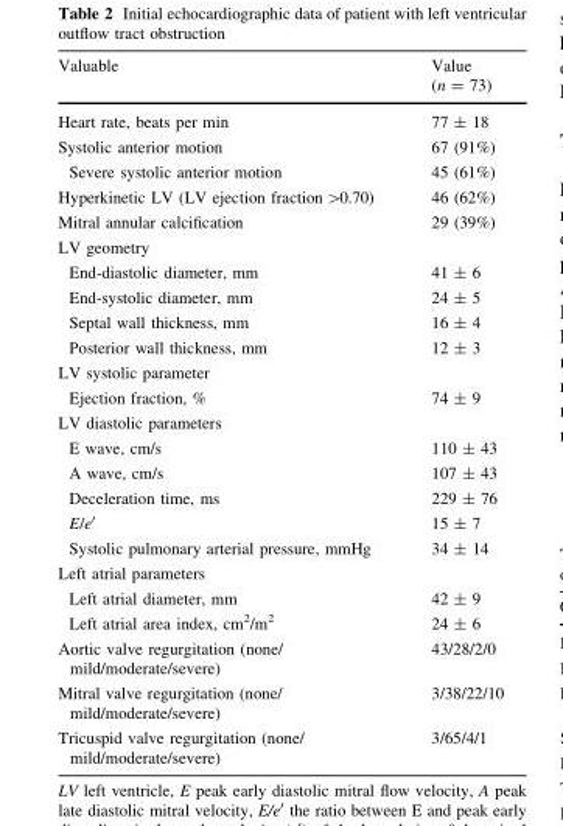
<table><thead><tr><td>Valuable</td><td>Value (n = 73)</td></tr></thead><tbody><tr><td>Heart rate, beats per min</td><td>77 ± 18</td></tr><tr><td>Systolic anterior motion</td><td>67 (91%)</td></tr><tr><td>Severe systolic anterior motion</td><td>45 (61%)</td></tr><tr><td>Hyperkinetic LV (LV ejection fraction &gt;0.70)</td><td>46 (62%)</td></tr><tr><td>Mitral annular calcification</td><td>29 (39%)</td></tr><tr><td colspan="2">LV geometry</td></tr><tr><td>End-diastolic diameter, mm</td><td>41 ± 6</td></tr><tr><td>End-systolic diameter, mm</td><td>24 ± 5</td></tr><tr><td>Septal wall thickness, mm</td><td>16 ± 4</td></tr><tr><td>Posterior wall thickness, mm</td><td>12 ± 3</td></tr><tr><td colspan="2">LV systolic parameter</td></tr><tr><td>Ejection fraction, %</td><td>74 ± 9</td></tr><tr><td colspan="2">LV diastolic parameters</td></tr><tr><td>E wave, cm/s</td><td>110 ± 43</td></tr><tr><td>A wave, cm/s</td><td>107 ± 43</td></tr><tr><td>Deceleration time, ms</td><td>229 ± 76</td></tr><tr><td>E/e′</td><td>15 ± 7</td></tr><tr><td>Systolic pulmonary arterial pressure, mmHg</td><td>34 ± 14</td></tr><tr><td colspan="2">Left atrial parameters</td></tr><tr><td>Left atrial diameter, mm</td><td>42 ± 9</td></tr><tr><td>Left atrial area index, cm<sup>2</sup>/m<sup>2</sup></td><td>24 ± 6</td></tr><tr><td>Aortic valve regurgitation (none/ mild/moderate/severe)</td><td>43/28/2/0</td></tr><tr><td>Mitral valve regurgitation (none/ mild/moderate/severe)</td><td>3/38/22/10</td></tr><tr><td>Tricuspid valve regurgitation (none/ mild/moderate/severe)</td><td>3/65/4/1</td></tr></tbody></table>